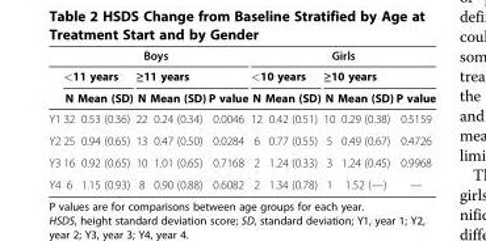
<table><thead><tr><td rowspan="3"></td><td colspan="5">Boys</td><td colspan="5">Girls</td></tr><tr><td colspan="2">&lt;11 years</td><td colspan="2">≥11 years</td><td rowspan="2">P value</td><td colspan="2">&lt;10 years</td><td colspan="2">≥10 years</td><td rowspan="2">P value</td></tr><tr><td>N</td><td>Mean (SD)</td><td>N</td><td>Mean (SD)</td><td>N</td><td>Mean (SD)</td><td>N</td><td>Mean (SD)</td></tr></thead><tbody><tr><td>Y1</td><td>32</td><td>0.53 (0.36)</td><td>22</td><td>0.24 (0.34)</td><td>0.0046</td><td>12</td><td>0.42 (0.51)</td><td>10</td><td>0.29 (0.38)</td><td>0.5159</td></tr><tr><td>Y2</td><td>25</td><td>0.94 (0.65)</td><td>13</td><td>0.47 (0.50)</td><td>0.0284</td><td>6</td><td>0.77 (0.55)</td><td>5</td><td>0.49 (0.67)</td><td>0.4726</td></tr><tr><td>Y3</td><td>16</td><td>0.92 (0.65)</td><td>10</td><td>1.01 (0.65)</td><td>0.7168</td><td>2</td><td>1.24 (0.33)</td><td>3</td><td>1.24 (0.45)</td><td>0.9968</td></tr><tr><td>Y4</td><td>6</td><td>1.15 (0.93)</td><td>8</td><td>0.90 (0.88)</td><td>0.6082</td><td>2</td><td>1.34 (0.78)</td><td>1</td><td>1.52 (—)</td><td>—</td></tr></tbody></table>